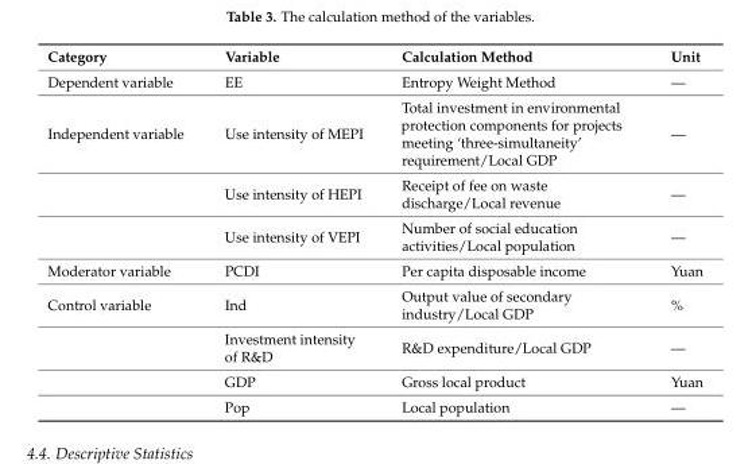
<table><thead><tr><td>Category</td><td>Variable</td><td>Calculation Method</td><td>Unit</td></tr></thead><tbody><tr><td>Dependent variable</td><td>EE</td><td>Entropy Weight Method</td><td>—</td></tr><tr><td rowspan="3">Independent variable</td><td>Use intensity of MEPI</td><td>Total investment in environmental protection components for projects meeting ‘three-simultaneity’ requirement/Local GDP</td><td>—</td></tr><tr><td>Use intensity of HEPI</td><td>Receipt of fee on waste discharge/Local revenue</td><td>—</td></tr><tr><td>Use intensity of VEPI</td><td>Number of social education activities/Local population</td><td>—</td></tr><tr><td>Moderator variable</td><td>PCDI</td><td>Per capita disposable income</td><td>Yuan</td></tr><tr><td rowspan="4">Control variable</td><td>Ind</td><td>Output value of secondary industry/Local GDP</td><td>%</td></tr><tr><td>Investment intensity of R&amp;D</td><td>R&amp;D expenditure/Local GDP</td><td>—</td></tr><tr><td>GDP</td><td>Gross local product</td><td>Yuan</td></tr><tr><td>Pop</td><td>Local population</td><td>—</td></tr></tbody></table>